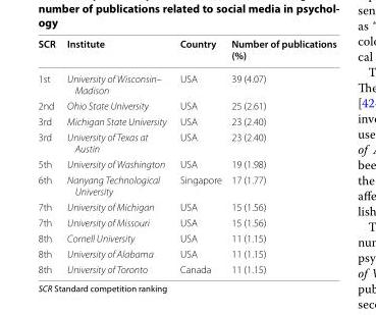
<table><thead><tr><td>SCR</td><td>Institute</td><td>Country</td><td>Number of publications (%)</td></tr></thead><tbody><tr><td>1st</td><td>University of Wisconsin– Madison</td><td>USA</td><td>39 (4.07)</td></tr><tr><td>2nd</td><td>Ohio State University</td><td>USA</td><td>25 (2.61)</td></tr><tr><td>3rd</td><td>Michigan State University</td><td>USA</td><td>23 (2.40)</td></tr><tr><td>3rd</td><td>University of Texas at Austin</td><td>USA</td><td>23 (2.40)</td></tr><tr><td>5th</td><td>University of Washington</td><td>USA</td><td>19 (1.98)</td></tr><tr><td>6th</td><td>Nanyang Technological University</td><td>Singapore</td><td>17 (1.77)</td></tr><tr><td>7th</td><td>University of Michigan</td><td>USA</td><td>15 (1.56)</td></tr><tr><td>7th</td><td>University of Missouri</td><td>USA</td><td>15 (1.56)</td></tr><tr><td>8th</td><td>Cornell University</td><td>USA</td><td>11 (1.15)</td></tr><tr><td>8th</td><td>University of Alabama</td><td>USA</td><td>11 (1.15)</td></tr><tr><td>8th</td><td>University of Toronto</td><td>Canada</td><td>11 (1.15)</td></tr></tbody></table>